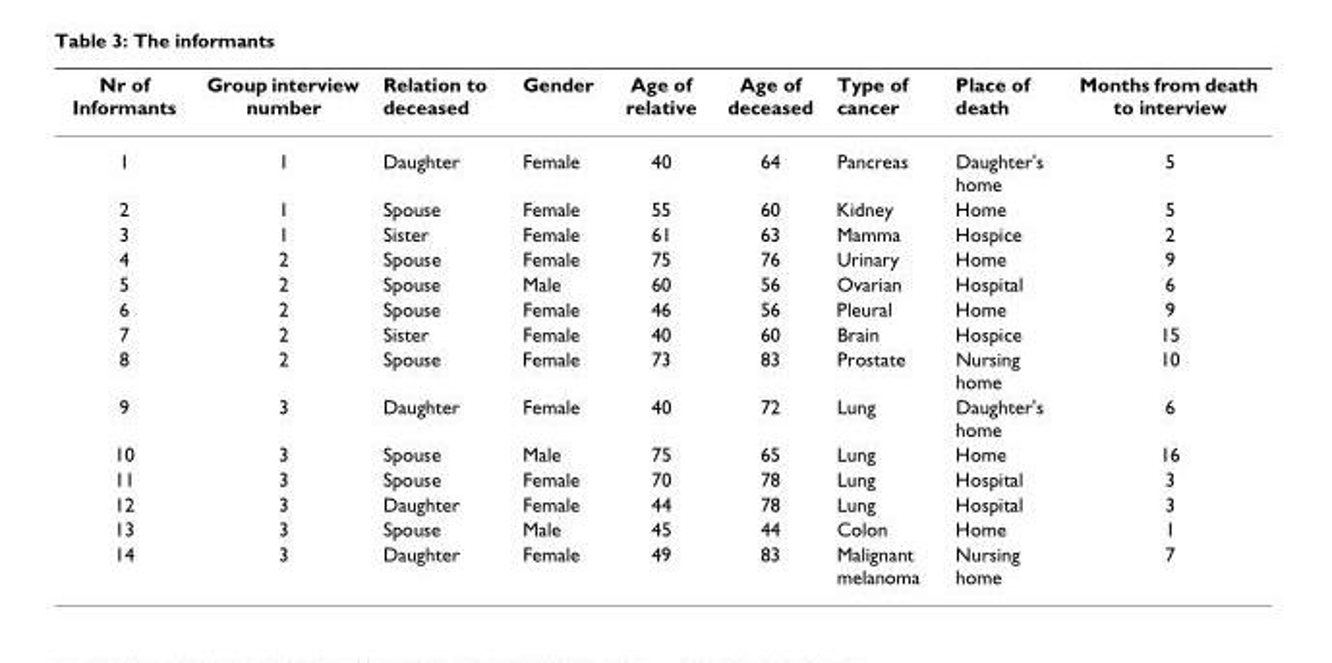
<table><thead><tr><td>Nr of Informants</td><td>Group interview number</td><td>Relation to deceased</td><td>Gender</td><td>Age of relative</td><td>Age of deceased</td><td>Type of cancer</td><td>Place of death</td><td>Months from death to interview</td></tr></thead><tbody><tr><td>1</td><td>1</td><td>Daughter</td><td>Female</td><td>40</td><td>64</td><td>Pancreas</td><td>Daughter&#x27;s home</td><td>5</td></tr><tr><td>2</td><td>1</td><td>Spouse</td><td>Female</td><td>55</td><td>60</td><td>Kidney</td><td>Home</td><td>5</td></tr><tr><td>3</td><td>1</td><td>Sister</td><td>Female</td><td>61</td><td>63</td><td>Mamma</td><td>Hospice</td><td>2</td></tr><tr><td>4</td><td>2</td><td>Spouse</td><td>Female</td><td>75</td><td>76</td><td>Urinary</td><td>Home</td><td>9</td></tr><tr><td>5</td><td>2</td><td>Spouse</td><td>Male</td><td>60</td><td>56</td><td>Ovarian</td><td>Hospital</td><td>6</td></tr><tr><td>6</td><td>2</td><td>Spouse</td><td>Female</td><td>46</td><td>56</td><td>Pleural</td><td>Home</td><td>9</td></tr><tr><td>7</td><td>2</td><td>Sister</td><td>Female</td><td>40</td><td>60</td><td>Brain</td><td>Hospice</td><td>15</td></tr><tr><td>8</td><td>2</td><td>Spouse</td><td>Female</td><td>73</td><td>83</td><td>Prostate</td><td>Nursing home</td><td>10</td></tr><tr><td>9</td><td>3</td><td>Daughter</td><td>Female</td><td>40</td><td>72</td><td>Lung</td><td>Daughter&#x27;s home</td><td>6</td></tr><tr><td>10</td><td>3</td><td>Spouse</td><td>Male</td><td>75</td><td>65</td><td>Lung</td><td>Home</td><td>16</td></tr><tr><td>11</td><td>3</td><td>Spouse</td><td>Female</td><td>70</td><td>78</td><td>Lung</td><td>Hospital</td><td>3</td></tr><tr><td>12</td><td>3</td><td>Daughter</td><td>Female</td><td>44</td><td>78</td><td>Lung</td><td>Hospital</td><td>3</td></tr><tr><td>13</td><td>3</td><td>Spouse</td><td>Male</td><td>45</td><td>44</td><td>Colon</td><td>Home</td><td>1</td></tr><tr><td>14</td><td>3</td><td>Daughter</td><td>Female</td><td>49</td><td>83</td><td>Malignant melanoma</td><td>Nursing home</td><td>7</td></tr></tbody></table>